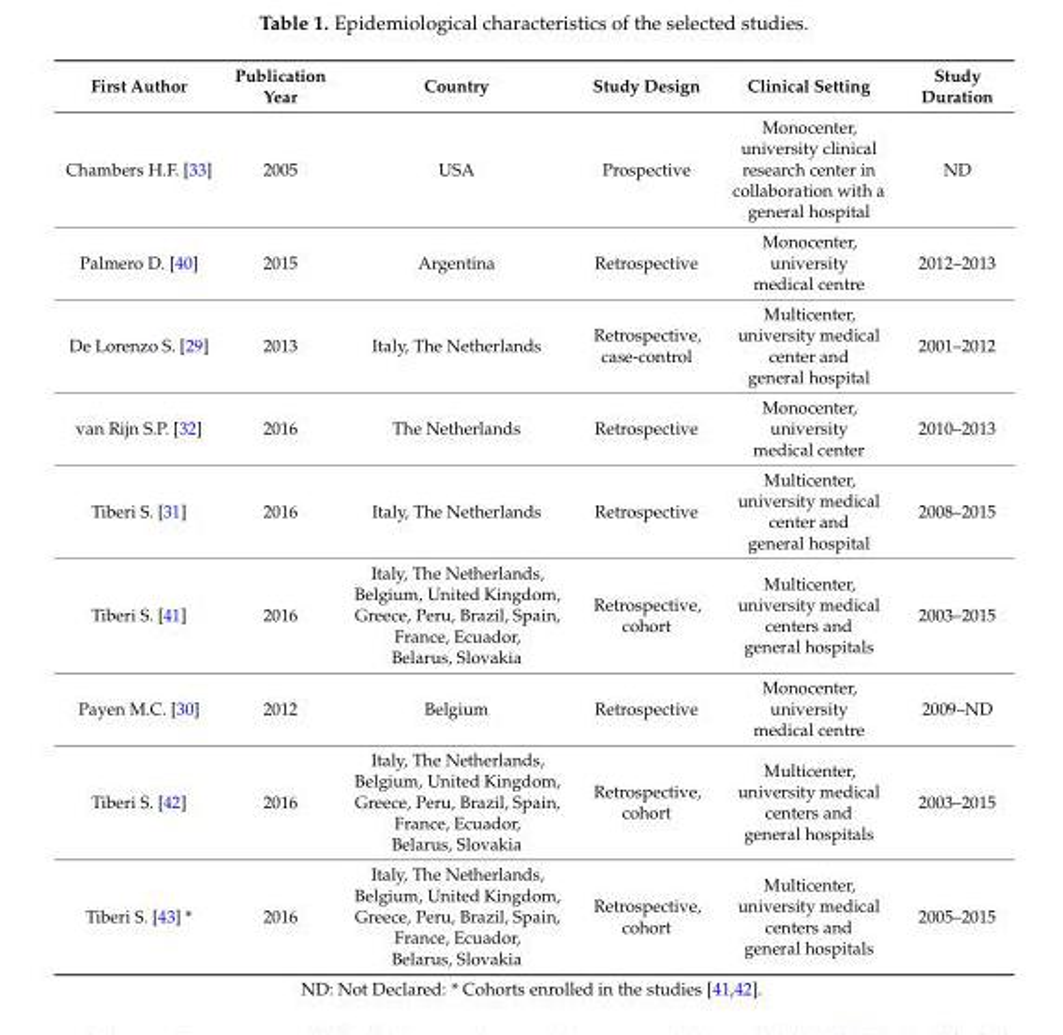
<table><thead><tr><td>First Author</td><td>Publication Year</td><td>Country</td><td>Study Design</td><td>Clinical Setting</td><td>Study Duration</td></tr></thead><tbody><tr><td>Chambers H.F. [33]</td><td>2005</td><td>USA</td><td>Prospective</td><td>Monocenter, university clinical research center in collaboration with a general hospital</td><td>ND</td></tr><tr><td>Palmero D. [40]</td><td>2015</td><td>Argentina</td><td>Retrospective</td><td>Monocenter, university medical centre</td><td>2012–2013</td></tr><tr><td>De Lorenzo S. [29]</td><td>2013</td><td>Italy, The Netherlands</td><td>Retrospective, case-control</td><td>Multicenter, university medical center and general hospital</td><td>2001–2012</td></tr><tr><td>van Rijn S.P. [32]</td><td>2016</td><td>The Netherlands</td><td>Retrospective</td><td>Monocenter, university medical center</td><td>2010–2013</td></tr><tr><td>Tiberi S. [31]</td><td>2016</td><td>Italy, The Netherlands</td><td>Retrospective</td><td>Multicenter, university medical center and general hospital</td><td>2008–2015</td></tr><tr><td>Tiberi S. [41]</td><td>2016</td><td>Italy, The Netherlands, Belgium, United Kingdom, Greece, Peru, Brazil, Spain, France, Ecuador, Belarus, Slovakia</td><td>Retrospective, cohort</td><td>Multicenter, university medical centers and general hospitals</td><td>2003–2015</td></tr><tr><td>Payen M.C. [30]</td><td>2012</td><td>Belgium</td><td>Retrospective</td><td>Monocenter, university medical centre</td><td>2009–ND</td></tr><tr><td>Tiberi S. [42]</td><td>2016</td><td>Italy, The Netherlands, Belgium, United Kingdom, Greece, Peru, Brazil, Spain, France, Ecuador, Belarus, Slovakia</td><td>Retrospective, cohort</td><td>Multicenter, university medical centers and general hospitals</td><td>2003–2015</td></tr><tr><td>Tiberi S. [43] *</td><td>2016</td><td>Italy, The Netherlands, Belgium, United Kingdom, Greece, Peru, Brazil, Spain, France, Ecuador, Belarus, Slovakia</td><td>Retrospective, cohort</td><td>Multicenter, university medical centers and general hospitals</td><td>2005–2015</td></tr></tbody></table>